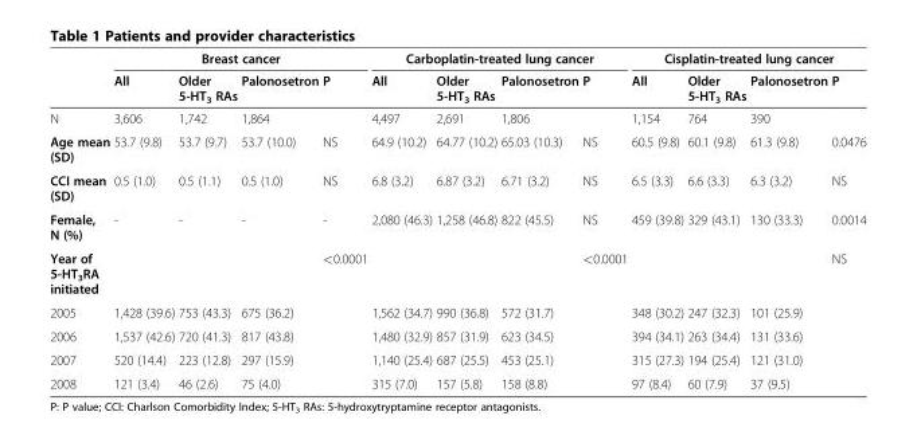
<table><thead><tr><td rowspan="2"></td><td colspan="4">Breast cancer</td><td colspan="4">Carboplatin-treated lung cancer</td><td colspan="4">Cisplatin-treated lung cancer</td></tr><tr><td>All</td><td>Older 5-HT<sub>3</sub> RAs</td><td>Palonosetron</td><td>P</td><td>All</td><td>Older 5-HT<sub>3</sub> RAs</td><td>Palonosetron</td><td>P</td><td>All</td><td>Older 5-HT<sub>3</sub> RAs</td><td>Palonosetron</td><td>P</td></tr></thead><tbody><tr><td>N</td><td>3,606</td><td>1,742</td><td>1,864</td><td></td><td>4,497</td><td>2,691</td><td>1,806</td><td></td><td>1,154</td><td>764</td><td>390</td><td></td></tr><tr><td>Age mean (SD)</td><td>53.7 (9.8)</td><td>53.7 (9.7)</td><td>53.7 (10.0)</td><td>NS</td><td>64.9 (10.2)</td><td>64.77 (10.2)</td><td>65.03 (10.3)</td><td>NS</td><td>60.5 (9.8)</td><td>60.1 (9.8)</td><td>61.3 (9.8)</td><td>0.0476</td></tr><tr><td>CCI mean (SD)</td><td>0.5 (1.0)</td><td>0.5 (1.1)</td><td>0.5 (1.0)</td><td>NS</td><td>6.8 (3.2)</td><td>6.87 (3.2)</td><td>6.71 (3.2)</td><td>NS</td><td>6.5 (3.3)</td><td>6.6 (3.3)</td><td>6.3 (3.2)</td><td>NS</td></tr><tr><td>Female, N (%)</td><td>-</td><td>-</td><td>-</td><td>-</td><td>2,080 (46.3)</td><td>1,258 (46.8)</td><td>822 (45.5)</td><td>NS</td><td>459 (39.8)</td><td>329 (43.1)</td><td>130 (33.3)</td><td>0.0014</td></tr><tr><td>Year of 5-HT<sub>3</sub>RA initiated</td><td></td><td></td><td></td><td>&lt;0.0001</td><td></td><td></td><td></td><td>&lt;0.0001</td><td></td><td></td><td></td><td>NS</td></tr><tr><td>2005</td><td>1,428 (39.6)</td><td>753 (43.3)</td><td>675 (36.2)</td><td></td><td>1,562 (34.7)</td><td>990 (36.8)</td><td>572 (31.7)</td><td></td><td>348 (30.2)</td><td>247 (32.3)</td><td>101 (25.9)</td><td></td></tr><tr><td>2006</td><td>1,537 (42.6)</td><td>720 (41.3)</td><td>817 (43.8)</td><td></td><td>1,480 (32.9)</td><td>857 (31.9)</td><td>623 (34.5)</td><td></td><td>394 (34.1)</td><td>263 (34.4)</td><td>131 (33.6)</td><td></td></tr><tr><td>2007</td><td>520 (14.4)</td><td>223 (12.8)</td><td>297 (15.9)</td><td></td><td>1,140 (25.4)</td><td>687 (25.5)</td><td>453 (25.1)</td><td></td><td>315 (27.3)</td><td>194 (25.4)</td><td>121 (31.0)</td><td></td></tr><tr><td>2008</td><td>121 (3.4)</td><td>46 (2.6)</td><td>75 (4.0)</td><td></td><td>315 (7.0)</td><td>157 (5.8)</td><td>158 (8.8)</td><td></td><td>97 (8.4)</td><td>60 (7.9)</td><td>37 (9.5)</td><td></td></tr></tbody></table>